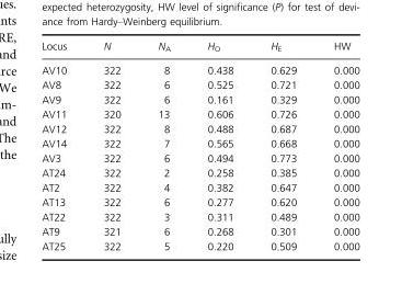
<table><thead><tr><td>Locus</td><td>N</td><td>N<sub>A</sub></td><td>H<sub>O</sub></td><td>H<sub>E</sub></td><td>HW</td></tr></thead><tbody><tr><td>AV10</td><td>322</td><td>8</td><td>0.438</td><td>0.629</td><td>0.000</td></tr><tr><td>AV8</td><td>322</td><td>6</td><td>0.525</td><td>0.721</td><td>0.000</td></tr><tr><td>AV9</td><td>322</td><td>6</td><td>0.161</td><td>0.329</td><td>0.000</td></tr><tr><td>AV11</td><td>320</td><td>13</td><td>0.606</td><td>0.726</td><td>0.000</td></tr><tr><td>AV12</td><td>322</td><td>8</td><td>0.488</td><td>0.687</td><td>0.000</td></tr><tr><td>AV14</td><td>322</td><td>7</td><td>0.565</td><td>0.668</td><td>0.000</td></tr><tr><td>AV3</td><td>322</td><td>6</td><td>0.494</td><td>0.773</td><td>0.000</td></tr><tr><td>AT24</td><td>322</td><td>2</td><td>0.258</td><td>0.385</td><td>0.000</td></tr><tr><td>AT2</td><td>322</td><td>4</td><td>0.382</td><td>0.647</td><td>0.000</td></tr><tr><td>AT13</td><td>322</td><td>6</td><td>0.277</td><td>0.620</td><td>0.000</td></tr><tr><td>AT22</td><td>322</td><td>3</td><td>0.311</td><td>0.489</td><td>0.000</td></tr><tr><td>AT9</td><td>321</td><td>6</td><td>0.268</td><td>0.301</td><td>0.000</td></tr><tr><td>AT25</td><td>322</td><td>5</td><td>0.220</td><td>0.509</td><td>0.000</td></tr></tbody></table>